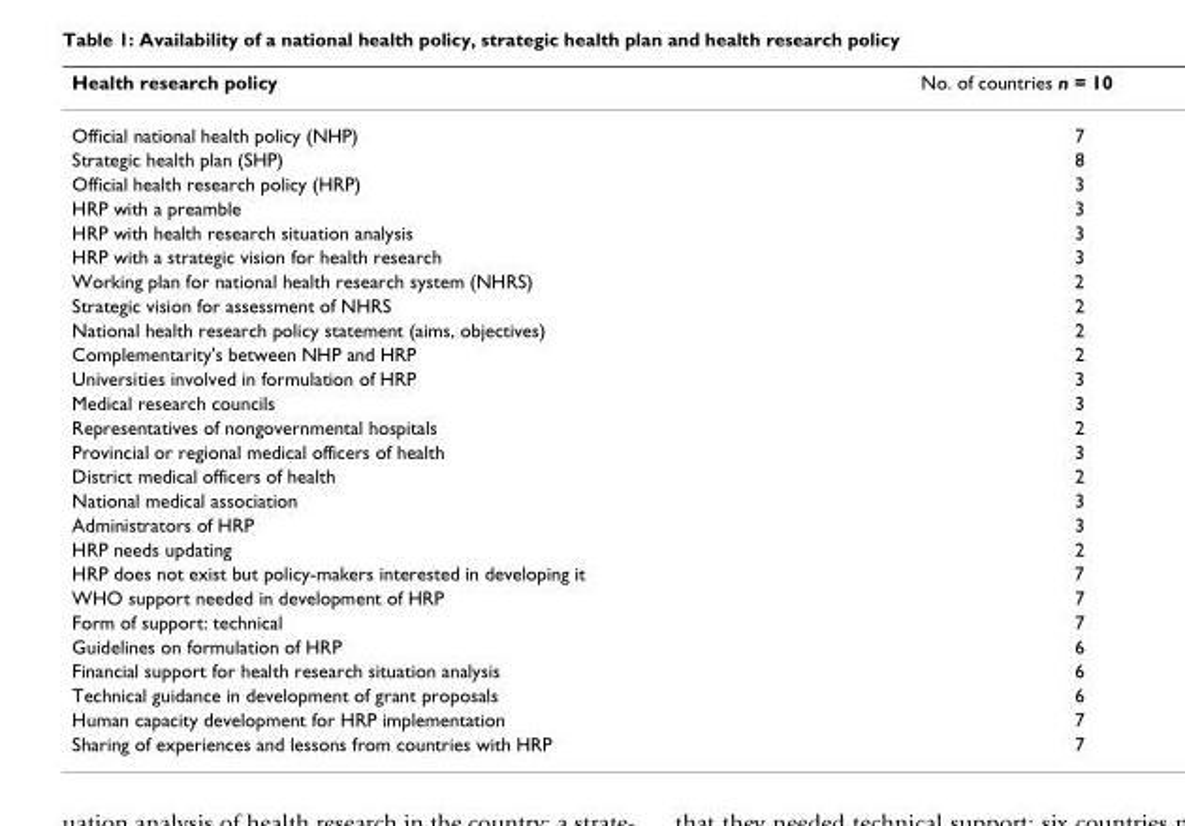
<table><thead><tr><td>Health research policy</td><td>No. of countries n = 10</td></tr></thead><tbody><tr><td>Official national health policy (NHP)</td><td>7</td></tr><tr><td>Strategic health plan (SHP)</td><td>8</td></tr><tr><td>Official health research policy (HRP)</td><td>3</td></tr><tr><td>HRP with a preamble</td><td>3</td></tr><tr><td>HRP with health research situation analysis</td><td>3</td></tr><tr><td>HRP with a strategic vision for health research</td><td>3</td></tr><tr><td>Working plan for national health research system (NHRS)</td><td>2</td></tr><tr><td>Strategic vision for assessment of NHRS</td><td>2</td></tr><tr><td>National health research policy statement (aims, objectives)</td><td>2</td></tr><tr><td>Complementarity&#x27;s between NHP and HRP</td><td>2</td></tr><tr><td>Universities involved in formulation of HRP</td><td>3</td></tr><tr><td>Medical research councils</td><td>3</td></tr><tr><td>Representatives of nongovernmental hospitals</td><td>2</td></tr><tr><td>Provincial or regional medical officers of health</td><td>3</td></tr><tr><td>District medical officers of health</td><td>2</td></tr><tr><td>National medical association</td><td>3</td></tr><tr><td>Administrators of HRP</td><td>3</td></tr><tr><td>HRP needs updating</td><td>2</td></tr><tr><td>HRP does not exist but policy-makers interested in developing it</td><td>7</td></tr><tr><td>WHO support needed in development of HRP</td><td>7</td></tr><tr><td>Form of support: technical</td><td>7</td></tr><tr><td>Guidelines on formulation of HRP</td><td>6</td></tr><tr><td>Financial support for health research situation analysis</td><td>6</td></tr><tr><td>Technical guidance in development of grant proposals</td><td>6</td></tr><tr><td>Human capacity development for HRP implementation</td><td>7</td></tr><tr><td>Sharing of experiences and lessons from countries with HRP</td><td>7</td></tr></tbody></table>